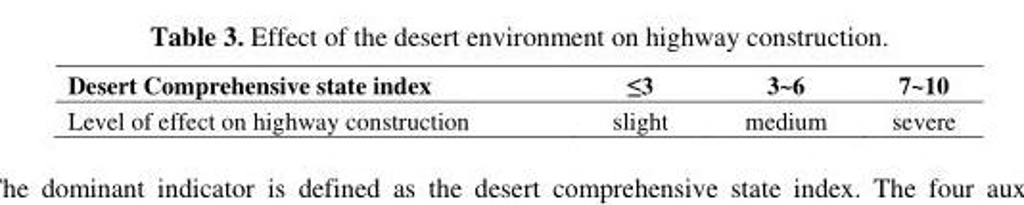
<table><thead><tr><td>Desert Comprehensive state index</td><td>≤3</td><td>3~6</td><td>7~10</td></tr></thead><tbody><tr><td>Level of effect on highway construction</td><td>slight</td><td>medium</td><td>severe</td></tr></tbody></table>